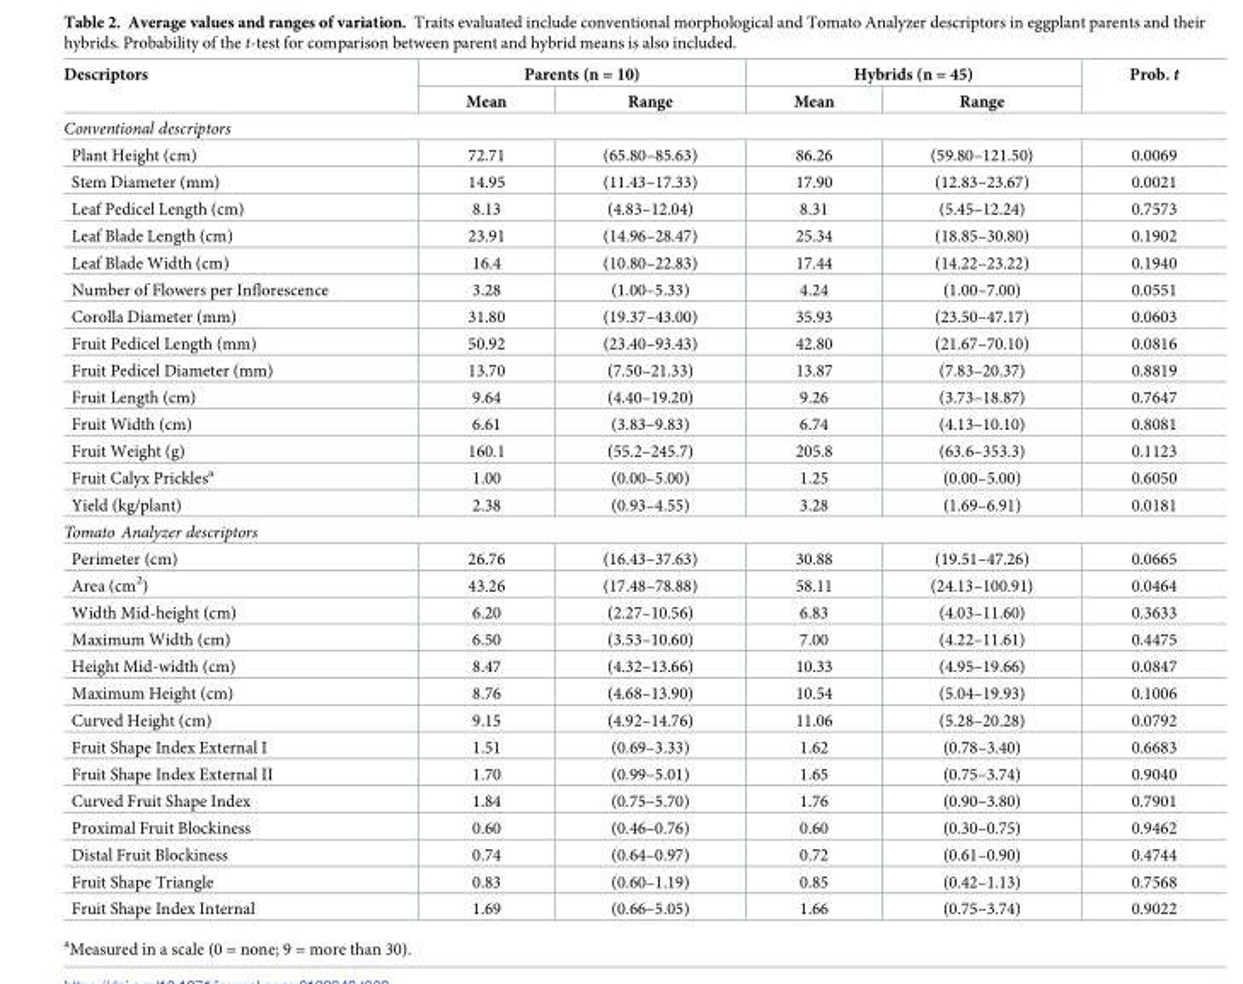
<table><thead><tr><td rowspan="2">Descriptors</td><td colspan="2">Parents (n = 10)</td><td colspan="2">Hybrids (n = 45)</td><td rowspan="2">Prob. t</td></tr><tr><td>Mean</td><td>Range</td><td>Mean</td><td>Range</td></tr></thead><tbody><tr><td colspan="6">Conventional descriptors</td></tr><tr><td>Plant Height (cm)</td><td>72.71</td><td>(65.80–85.63)</td><td>86.26</td><td>(59.80–121.50)</td><td>0.0069</td></tr><tr><td>Stem Diameter (mm)</td><td>14.95</td><td>(11.43–17.33)</td><td>17.90</td><td>(12.83–23.67)</td><td>0.0021</td></tr><tr><td>Leaf Pedicel Length (cm)</td><td>8.13</td><td>(4.83–12.04)</td><td>8.31</td><td>(5.45–12.24)</td><td>0.7573</td></tr><tr><td>Leaf Blade Length (cm)</td><td>23.91</td><td>(14.96–28.47)</td><td>25.34</td><td>(18.85–30.80)</td><td>0.1902</td></tr><tr><td>Leaf Blade Width (cm)</td><td>16.4</td><td>(10.80–22.83)</td><td>17.44</td><td>(14.22–23.22)</td><td>0.1940</td></tr><tr><td>Number of Flowers per Inflorescence</td><td>3.28</td><td>(1.00–5.33)</td><td>4.24</td><td>(1.00–7.00)</td><td>0.0551</td></tr><tr><td>Corolla Diameter (mm)</td><td>31.80</td><td>(19.37–43.00)</td><td>35.93</td><td>(23.50–47.17)</td><td>0.0603</td></tr><tr><td>Fruit Pedicel Length (mm)</td><td>50.92</td><td>(23.40–93.43)</td><td>42.80</td><td>(21.67–70.10)</td><td>0.0816</td></tr><tr><td>Fruit Pedicel Diameter (mm)</td><td>13.70</td><td>(7.50–21.33)</td><td>13.87</td><td>(7.83–20.37)</td><td>0.8819</td></tr><tr><td>Fruit Length (cm)</td><td>9.64</td><td>(4.40–19.20)</td><td>9.26</td><td>(3.73–18.87)</td><td>0.7647</td></tr><tr><td>Fruit Width (cm)</td><td>6.61</td><td>(3.83–9.83)</td><td>6.74</td><td>(4.13–10.10)</td><td>0.8081</td></tr><tr><td>Fruit Weight (g)</td><td>160.1</td><td>(55.2–245.7)</td><td>205.8</td><td>(63.6–353.3)</td><td>0.1123</td></tr><tr><td>Fruit Calyx Prickles<sup>a</sup></td><td>1.00</td><td>(0.00–5.00)</td><td>1.25</td><td>(0.00–5.00)</td><td>0.6050</td></tr><tr><td>Yield (kg/plant)</td><td>2.38</td><td>(0.93–4.55)</td><td>3.28</td><td>(1.69–6.91)</td><td>0.0181</td></tr><tr><td colspan="6">Tomato Analyzer descriptors</td></tr><tr><td>Perimeter (cm)</td><td>26.76</td><td>(16.43–37.63)</td><td>30.88</td><td>(19.51–47.26)</td><td>0.0665</td></tr><tr><td>Area (cm<sup>2</sup>)</td><td>43.26</td><td>(17.48–78.88)</td><td>58.11</td><td>(24.13–100.91)</td><td>0.0464</td></tr><tr><td>Width Mid-height (cm)</td><td>6.20</td><td>(2.27–10.56)</td><td>6.83</td><td>(4.03–11.60)</td><td>0.3633</td></tr><tr><td>Maximum Width (cm)</td><td>6.50</td><td>(3.53–10.60)</td><td>7.00</td><td>(4.22–11.61)</td><td>0.4475</td></tr><tr><td>Height Mid-width (cm)</td><td>8.47</td><td>(4.32–13.66)</td><td>10.33</td><td>(4.95–19.66)</td><td>0.0847</td></tr><tr><td>Maximum Height (cm)</td><td>8.76</td><td>(4.68–13.90)</td><td>10.54</td><td>(5.04–19.93)</td><td>0.1006</td></tr><tr><td>Curved Height (cm)</td><td>9.15</td><td>(4.92–14.76)</td><td>11.06</td><td>(5.28–20.28)</td><td>0.0792</td></tr><tr><td>Fruit Shape Index External I</td><td>1.51</td><td>(0.69–3.33)</td><td>1.62</td><td>(0.78–3.40)</td><td>0.6683</td></tr><tr><td>Fruit Shape Index External II</td><td>1.70</td><td>(0.99–5.01)</td><td>1.65</td><td>(0.75–3.74)</td><td>0.9040</td></tr><tr><td>Curved Fruit Shape Index</td><td>1.84</td><td>(0.75–5.70)</td><td>1.76</td><td>(0.90–3.80)</td><td>0.7901</td></tr><tr><td>Proximal Fruit Blockiness</td><td>0.60</td><td>(0.46–0.76)</td><td>0.60</td><td>(0.30–0.75)</td><td>0.9462</td></tr><tr><td>Distal Fruit Blockiness</td><td>0.74</td><td>(0.64–0.97)</td><td>0.72</td><td>(0.61–0.90)</td><td>0.4744</td></tr><tr><td>Fruit Shape Triangle</td><td>0.83</td><td>(0.60–1.19)</td><td>0.85</td><td>(0.42–1.13)</td><td>0.7568</td></tr><tr><td>Fruit Shape Index Internal</td><td>1.69</td><td>(0.66–5.05)</td><td>1.66</td><td>(0.75–3.74)</td><td>0.9022</td></tr></tbody></table>